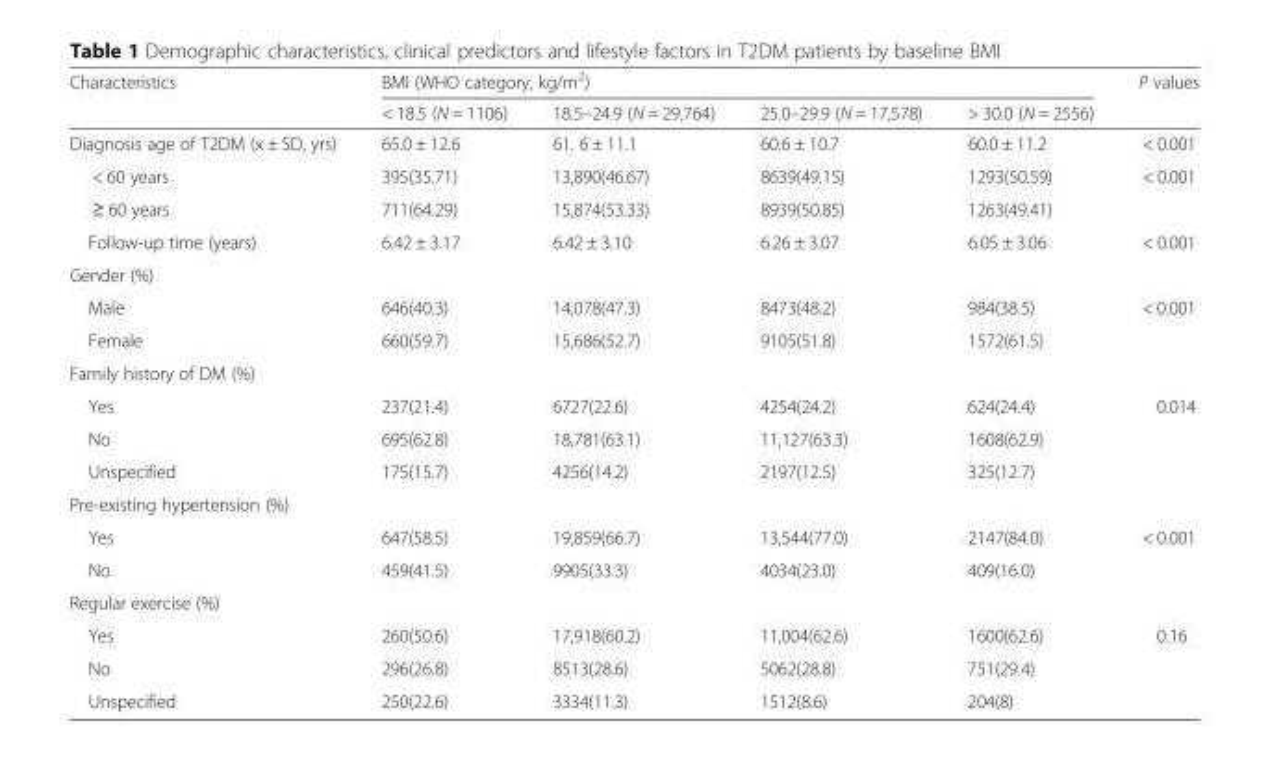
<table><thead><tr><td rowspan="2">Characteristics</td><td colspan="4">BMI (WHO category, kg/m<sup>2</sup>)</td><td rowspan="2">P values</td></tr><tr><td>&lt; 18.5 (N = 1106)</td><td>18.5–24.9 (N = 29,764)</td><td>25.0–29.9 (N = 17,578)</td><td>&gt; 30.0 (N = 2556)</td></tr></thead><tbody><tr><td>Diagnosis age of T2DM (x ± SD, yrs)</td><td>65.0 ± 12.6</td><td>61. 6 ± 11.1</td><td>60.6 ± 10.7</td><td>60.0 ± 11.2</td><td>&lt; 0.001</td></tr><tr><td>&lt; 60 years</td><td>395(35.71)</td><td>13,890(46.67)</td><td>8639(49.15)</td><td>1293(50.59)</td><td rowspan="2">&lt; 0.001</td></tr><tr><td>≥ 60 years</td><td>711(64.29)</td><td>15,874(53.33)</td><td>8939(50.85)</td><td>1263(49.41)</td></tr><tr><td>Follow-up time (years)</td><td>6.42 ± 3.17</td><td>6.42 ± 3.10</td><td>6.26 ± 3.07</td><td>6.05 ± 3.06</td><td>&lt; 0.001</td></tr><tr><td colspan="6">Gender (%)</td></tr><tr><td>Male</td><td>646(40.3)</td><td>14,078(47.3)</td><td>8473(48.2)</td><td>984(38.5)</td><td rowspan="2">&lt; 0.001</td></tr><tr><td>Female</td><td>660(59.7)</td><td>15,686(52.7)</td><td>9105(51.8)</td><td>1572(61.5)</td></tr><tr><td colspan="6">Family history of DM (%)</td></tr><tr><td>Yes</td><td>237(21.4)</td><td>6727(22.6)</td><td>4254(24.2)</td><td>624(24.4)</td><td rowspan="3">0.014</td></tr><tr><td>No</td><td>695(62.8)</td><td>18,781(63.1)</td><td>11,127(63.3)</td><td>1608(62.9)</td></tr><tr><td>Unspecified</td><td>175(15.7)</td><td>4256(14.2)</td><td>2197(12.5)</td><td>325(12.7)</td></tr><tr><td colspan="6">Pre-existing hypertension (%)</td></tr><tr><td>Yes</td><td>647(58.5)</td><td>19,859(66.7)</td><td>13,544(77.0)</td><td>2147(84.0)</td><td rowspan="2">&lt; 0.001</td></tr><tr><td>No</td><td>459(41.5)</td><td>9905(33.3)</td><td>4034(23.0)</td><td>409(16.0)</td></tr><tr><td colspan="6">Regular exercise (%)</td></tr><tr><td>Yes</td><td>260(50.6)</td><td>17,918(60.2)</td><td>11,004(62.6)</td><td>1600(62.6)</td><td rowspan="3">0.16</td></tr><tr><td>No</td><td>296(26.8)</td><td>8513(28.6)</td><td>5062(28.8)</td><td>751(29.4)</td></tr><tr><td>Unspecified</td><td>250(22.6)</td><td>3334(11.3)</td><td>1512(8.6)</td><td>204(8)</td></tr></tbody></table>